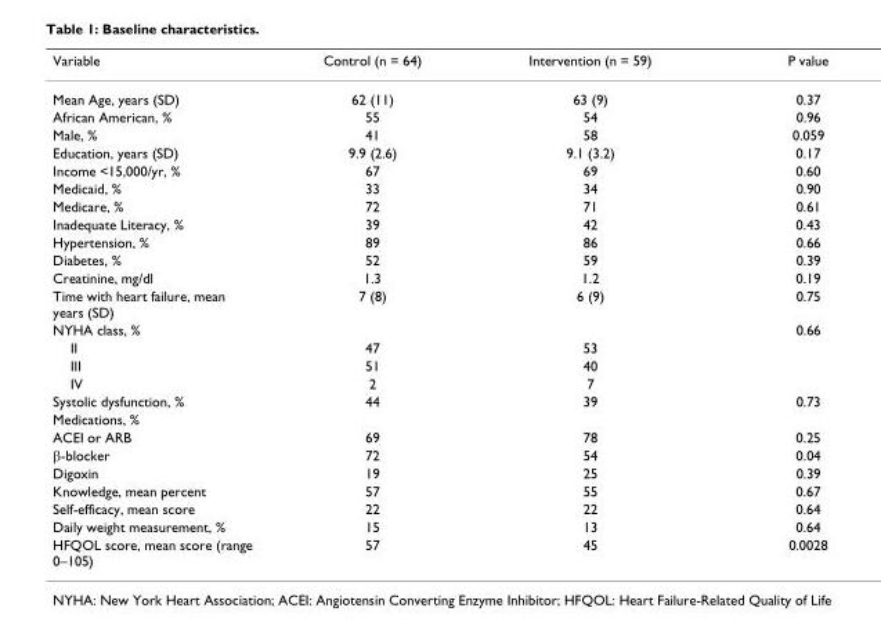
<table><thead><tr><td>Variable</td><td>Control (n = 64)</td><td>Intervention (n = 59)</td><td>P value</td></tr></thead><tbody><tr><td>Mean Age, years (SD)</td><td>62 (11)</td><td>63 (9)</td><td>0.37</td></tr><tr><td>African American, %</td><td>55</td><td>54</td><td>0.96</td></tr><tr><td>Male, %</td><td>41</td><td>58</td><td>0.059</td></tr><tr><td>Education, years (SD)</td><td>9.9 (2.6)</td><td>9.1 (3.2)</td><td>0.17</td></tr><tr><td>Income &lt;15,000/yr, %</td><td>67</td><td>69</td><td>0.60</td></tr><tr><td>Medicaid, %</td><td>33</td><td>34</td><td>0.90</td></tr><tr><td>Medicare, %</td><td>72</td><td>71</td><td>0.61</td></tr><tr><td>Inadequate Literacy, %</td><td>39</td><td>42</td><td>0.43</td></tr><tr><td>Hypertension, %</td><td>89</td><td>86</td><td>0.66</td></tr><tr><td>Diabetes, %</td><td>52</td><td>59</td><td>0.39</td></tr><tr><td>Creatinine, mg/dl</td><td>1.3</td><td>1.2</td><td>0.19</td></tr><tr><td>Time with heart failure, mean years (SD)</td><td>7 (8)</td><td>6 (9)</td><td>0.75</td></tr><tr><td>NYHA class, %</td><td></td><td></td><td>0.66</td></tr><tr><td>II</td><td>47</td><td>53</td><td></td></tr><tr><td>III</td><td>51</td><td>40</td><td></td></tr><tr><td>IV</td><td>2</td><td>7</td><td></td></tr><tr><td>Systolic dysfunction, %</td><td>44</td><td>39</td><td>0.73</td></tr><tr><td colspan="4">Medications, %</td></tr><tr><td>ACEI or ARB</td><td>69</td><td>78</td><td>0.25</td></tr><tr><td>β-blocker</td><td>72</td><td>54</td><td>0.04</td></tr><tr><td>Digoxin</td><td>19</td><td>25</td><td>0.39</td></tr><tr><td>Knowledge, mean percent</td><td>57</td><td>55</td><td>0.67</td></tr><tr><td>Self-efficacy, mean score</td><td>22</td><td>22</td><td>0.64</td></tr><tr><td>Daily weight measurement, %</td><td>15</td><td>13</td><td>0.64</td></tr><tr><td>HFQOL score, mean score (range 0–105)</td><td>57</td><td>45</td><td>0.0028</td></tr></tbody></table>